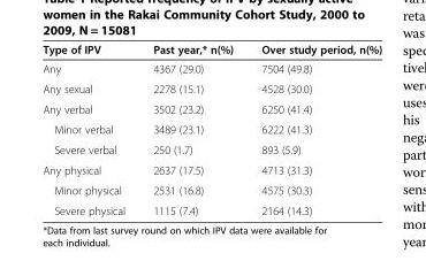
<table><thead><tr><td>Type of IPV</td><td>Past year,* n(%)</td><td>Over study period, n(%)</td></tr></thead><tbody><tr><td>Any</td><td>4367 (29.0)</td><td>7504 (49.8)</td></tr><tr><td>Any sexual</td><td>2278 (15.1)</td><td>4528 (30.0)</td></tr><tr><td>Any verbal</td><td>3502 (23.2)</td><td>6250 (41.4)</td></tr><tr><td>Minor verbal</td><td>3489 (23.1)</td><td>6222 (41.3)</td></tr><tr><td>Severe verbal</td><td>250 (1.7)</td><td>893 (5.9)</td></tr><tr><td>Any physical</td><td>2637 (17.5)</td><td>4713 (31.3)</td></tr><tr><td>Minor physical</td><td>2531 (16.8)</td><td>4575 (30.3)</td></tr><tr><td>Severe physical</td><td>1115 (7.4)</td><td>2164 (14.3)</td></tr></tbody></table>